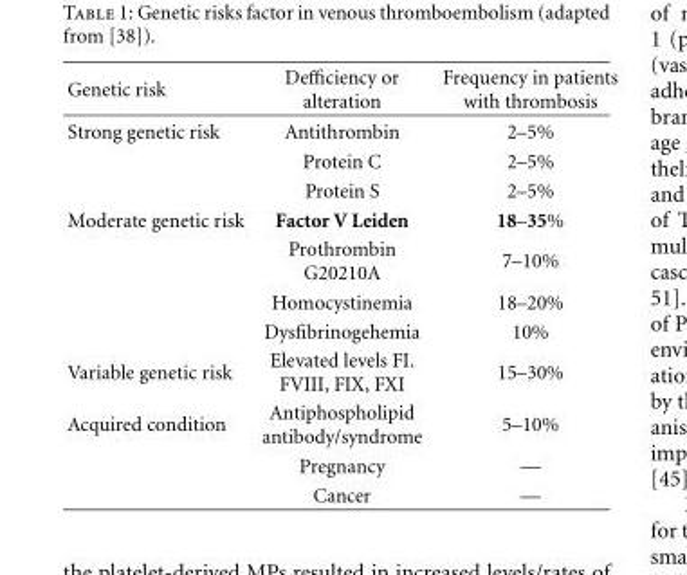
<table><thead><tr><td>Genetic risk</td><td>Defficiency or alteration</td><td>Frequency in patients with thrombosis</td></tr></thead><tbody><tr><td rowspan="3">Strong genetic risk</td><td>Antithrombin</td><td>2–5%</td></tr><tr><td>Protein C</td><td>2–5%</td></tr><tr><td>Protein S</td><td>2–5%</td></tr><tr><td rowspan="4">Moderate genetic risk</td><td>Factor V Leiden</td><td>18–35%</td></tr><tr><td>Prothrombin G20210A</td><td>7–10%</td></tr><tr><td>Homocystinemia</td><td>18–20%</td></tr><tr><td>Dysfibrinogehemia</td><td>10%</td></tr><tr><td>Variable genetic risk</td><td>Elevated levels FI. FVIII, FIX, FXI</td><td>15–30%</td></tr><tr><td rowspan="3">Acquired condition</td><td>Antiphospholipid antibody/syndrome</td><td>5–10%</td></tr><tr><td>Pregnancy</td><td>—</td></tr><tr><td>Cancer</td><td>—</td></tr></tbody></table>